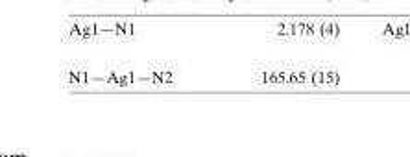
<table><tbody><tr><td>N1—Ag1—N2</td><td>165.65 (15)</td></tr></tbody></table>